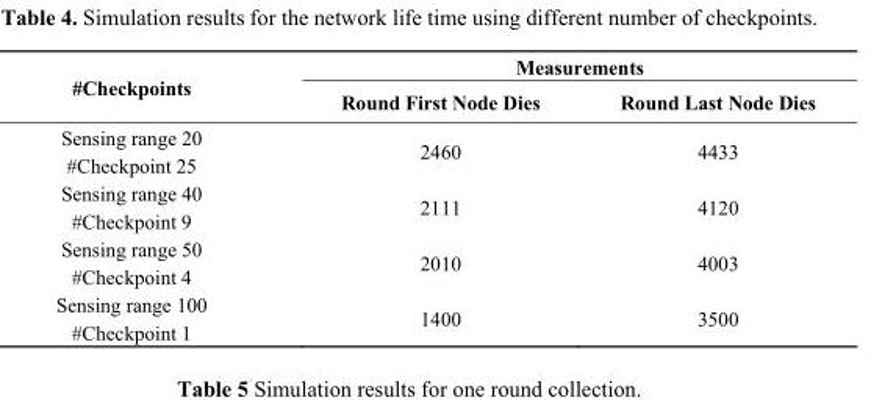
<table><thead><tr><td rowspan="2">#Checkpoints</td><td colspan="2">Measurements</td></tr><tr><td>Round First Node Dies</td><td>Round Last Node Dies</td></tr></thead><tbody><tr><td>Sensing range 20 #Checkpoint 25</td><td>2460</td><td>4433</td></tr><tr><td>Sensing range 40 #Checkpoint 9</td><td>2111</td><td>4120</td></tr><tr><td>Sensing range 50 #Checkpoint 4</td><td>2010</td><td>4003</td></tr><tr><td>Sensing range 100 #Checkpoint 1</td><td>1400</td><td>3500</td></tr></tbody></table>